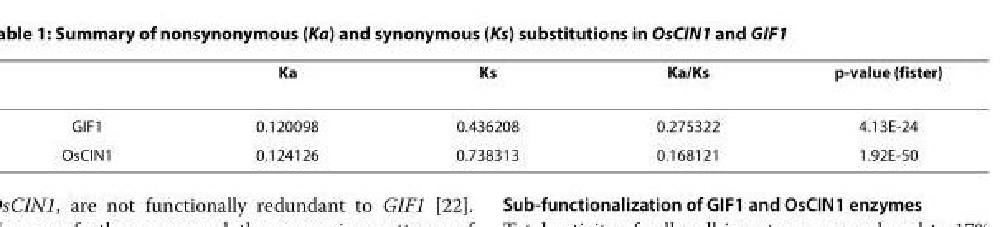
<table><thead><tr><td></td><td>Ka</td><td>Ks</td><td>Ka/Ks</td><td>p-value (fister)</td></tr></thead><tbody><tr><td>GIF1</td><td>0.120098</td><td>0.436208</td><td>0.275322</td><td>4.13E-24</td></tr><tr><td>OsCIN1</td><td>0.124126</td><td>0.738313</td><td>0.168121</td><td>1.92E-50</td></tr></tbody></table>